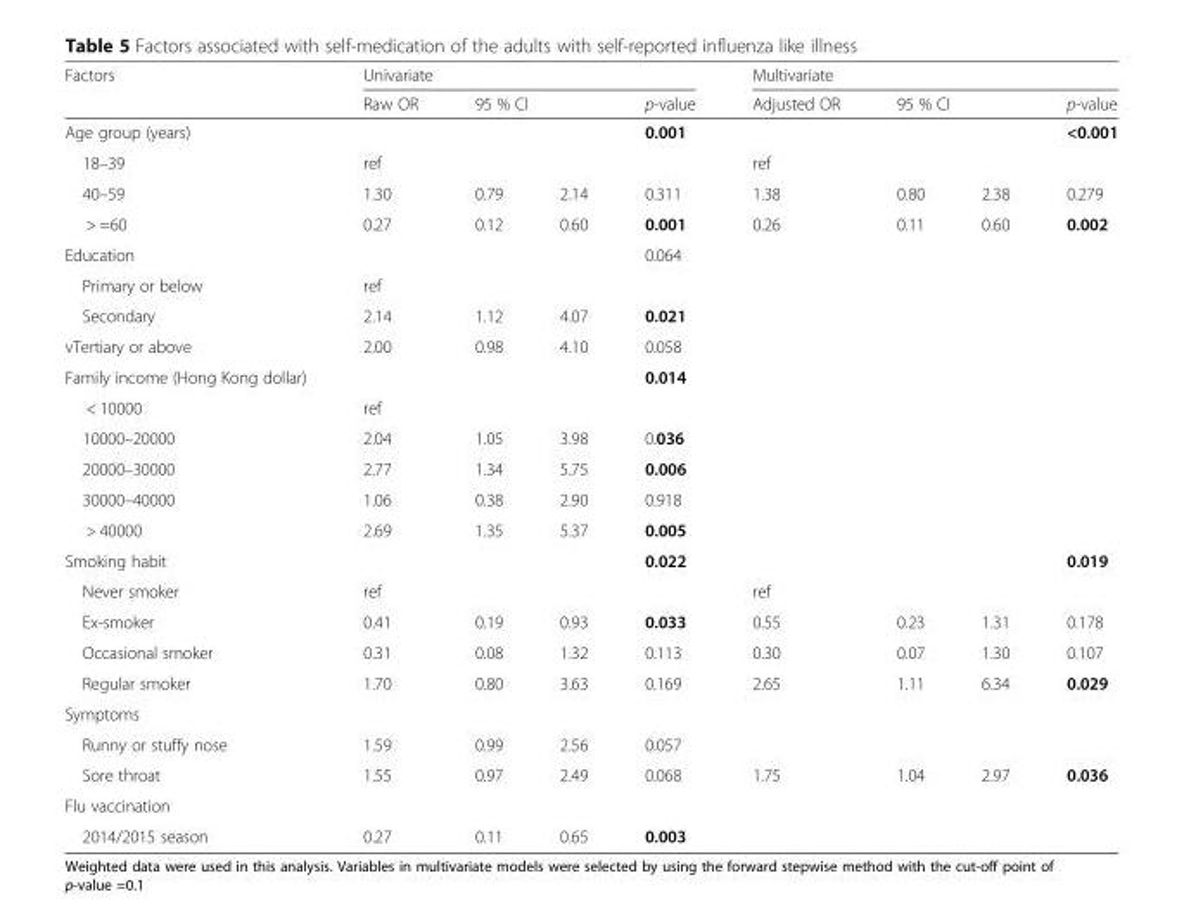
<table><thead><tr><td rowspan="3">Factors Age group (years)</td><td colspan="4">Univariate</td><td colspan="4">Multivariate</td></tr><tr><td rowspan="2">Raw OR</td><td colspan="2">95 % CI</td><td rowspan="2">p-value 0.001</td><td rowspan="2">Adjusted OR</td><td colspan="2">95 % CI</td><td rowspan="2">p-value &lt;0.001</td></tr><tr><td></td><td></td><td></td><td></td></tr></thead><tbody><tr><td>18–39</td><td>ref</td><td></td><td></td><td></td><td>ref</td><td></td><td></td><td></td></tr><tr><td>40–59</td><td>1.30</td><td>0.79</td><td>2.14</td><td>0.311</td><td>1.38</td><td>0.80</td><td>2.38</td><td>0.279</td></tr><tr><td>&gt; =60</td><td>0.27</td><td>0.12</td><td>0.60</td><td>0.001</td><td>0.26</td><td>0.11</td><td>0.60</td><td>0.002</td></tr><tr><td>Education</td><td></td><td></td><td></td><td>0.064</td><td></td><td></td><td></td><td></td></tr><tr><td>Primary or below</td><td>ref</td><td></td><td></td><td></td><td></td><td></td><td></td><td></td></tr><tr><td>Secondary</td><td>2.14</td><td>1.12</td><td>4.07</td><td>0.021</td><td></td><td></td><td></td><td></td></tr><tr><td>vTertiary or above</td><td>2.00</td><td>0.98</td><td>4.10</td><td>0.058</td><td></td><td></td><td></td><td></td></tr><tr><td>Family income (Hong Kong dollar)</td><td></td><td></td><td></td><td>0.014</td><td></td><td></td><td></td><td></td></tr><tr><td>&lt; 10000</td><td>ref</td><td></td><td></td><td></td><td></td><td></td><td></td><td></td></tr><tr><td>10000–20000</td><td>2.04</td><td>1.05</td><td>3.98</td><td>0.036</td><td></td><td></td><td></td><td></td></tr><tr><td>20000–30000</td><td>2.77</td><td>1.34</td><td>5.75</td><td>0.006</td><td></td><td></td><td></td><td></td></tr><tr><td>30000–40000</td><td>1.06</td><td>0.38</td><td>2.90</td><td>0.918</td><td></td><td></td><td></td><td></td></tr><tr><td>&gt; 40000</td><td>2.69</td><td>1.35</td><td>5.37</td><td>0.005</td><td></td><td></td><td></td><td></td></tr><tr><td>Smoking habit</td><td></td><td></td><td></td><td>0.022</td><td></td><td></td><td></td><td>0.019</td></tr><tr><td>Never smoker</td><td>ref</td><td></td><td></td><td></td><td>ref</td><td></td><td></td><td></td></tr><tr><td>Ex-smoker</td><td>0.41</td><td>0.19</td><td>0.93</td><td>0.033</td><td>0.55</td><td>0.23</td><td>1.31</td><td>0.178</td></tr><tr><td>Occasional smoker</td><td>0.31</td><td>0.08</td><td>1.32</td><td>0.113</td><td>0.30</td><td>0.07</td><td>1.30</td><td>0.107</td></tr><tr><td>Regular smoker</td><td>1.70</td><td>0.80</td><td>3.63</td><td>0.169</td><td>2.65</td><td>1.11</td><td>6.34</td><td>0.029</td></tr><tr><td colspan="9">Symptoms</td></tr><tr><td>Runny or stuffy nose</td><td>1.59</td><td>0.99</td><td>2.56</td><td>0.057</td><td></td><td></td><td></td><td></td></tr><tr><td>Sore throat</td><td>1.55</td><td>0.97</td><td>2.49</td><td>0.068</td><td>1.75</td><td>1.04</td><td>2.97</td><td>0.036</td></tr><tr><td colspan="9">Flu vaccination</td></tr><tr><td>2014/2015 season</td><td>0.27</td><td>0.11</td><td>0.65</td><td>0.003</td><td></td><td></td><td></td><td></td></tr></tbody></table>